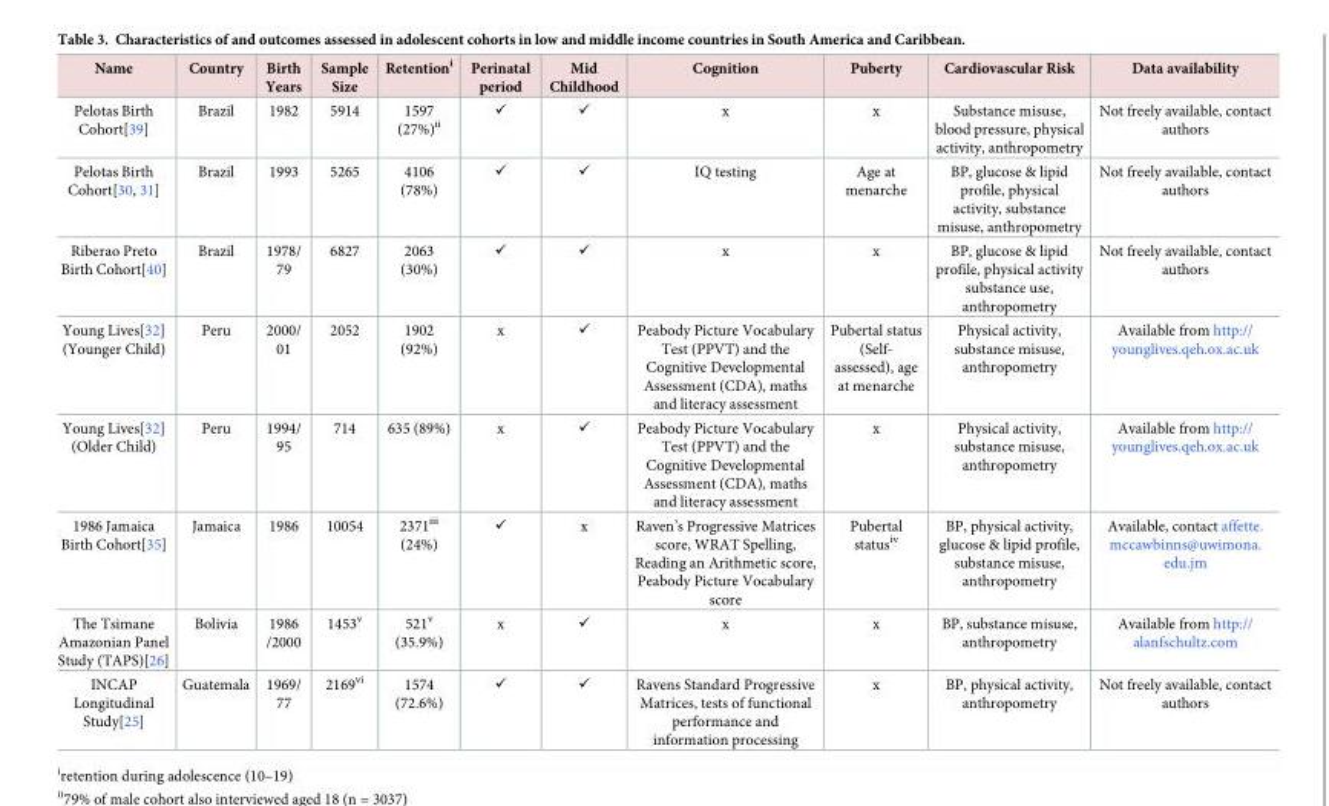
<table><thead><tr><td>Name</td><td>Country</td><td>Birth Years</td><td>Sample Size</td><td>Retention<sup>i</sup></td><td>Perinatal period</td><td>Mid Childhood</td><td>Cognition</td><td>Puberty</td><td>Cardiovascular Risk</td><td>Data availability</td></tr></thead><tbody><tr><td>Pelotas Birth Cohort[39]</td><td>Brazil</td><td>1982</td><td>5914</td><td>1597 (27%)<sup>ii</sup></td><td>✓</td><td>✓</td><td>x</td><td>x</td><td>Substance misuse, blood pressure, physical activity, anthropometry</td><td>Not freely available, contact authors</td></tr><tr><td>Pelotas Birth Cohort[30, 31]</td><td>Brazil</td><td>1993</td><td>5265</td><td>4106 (78%)</td><td>✓</td><td>✓</td><td>IQ testing</td><td>Age at menarche</td><td>BP, glucose &amp; lipid profile, physical activity, substance misuse, anthropometry</td><td>Not freely available, contact authors</td></tr><tr><td>Riberao Preto Birth Cohort[40]</td><td>Brazil</td><td>1978/ 79</td><td>6827</td><td>2063 (30%)</td><td>✓</td><td>✓</td><td>x</td><td>x</td><td>BP, glucose &amp; lipid profile, physical activity substance use, anthropometry</td><td>Not freely available, contact authors</td></tr><tr><td>Young Lives[32] (Younger Child)</td><td>Peru</td><td>2000/ 01</td><td>2052</td><td>1902 (92%)</td><td>x</td><td>✓</td><td>Peabody Picture Vocabulary Test (PPVT) and the Cognitive Developmental Assessment (CDA), maths and literacy assessment</td><td>Pubertal status (Self- assessed), age at menarche</td><td>Physical activity, substance misuse, anthropometry</td><td>Available from http:// younglives.qeh.ox.ac.uk</td></tr><tr><td>Young Lives[32] (Older Child)</td><td>Peru</td><td>1994/ 95</td><td>714</td><td>635 (89%)</td><td>x</td><td>✓</td><td>Peabody Picture Vocabulary Test (PPVT) and the Cognitive Developmental Assessment (CDA), maths and literacy assessment</td><td>x</td><td>Physical activity, substance misuse, anthropometry</td><td>Available from http:// younglives.qeh.ox.ac.uk</td></tr><tr><td>1986 Jamaica Birth Cohort[35]</td><td>Jamaica</td><td>1986</td><td>10054</td><td>2371<sup>iii</sup> (24%)</td><td>✓</td><td>x</td><td>Raven’s Progressive Matrices score, WRAT Spelling, Reading an Arithmetic score, Peabody Picture Vocabulary score</td><td>Pubertal status<sup>iv</sup></td><td>BP, physical activity, glucose &amp; lipid profile, substance misuse, anthropometry</td><td>Available, contact affette. mccawbinns@uwimona. edu.jm</td></tr><tr><td>The Tsimane Amazonian Panel Study (TAPS)[26]</td><td>Bolivia</td><td>1986 /2000</td><td>1453<sup>v</sup></td><td>521<sup>v</sup> (35.9%)</td><td>x</td><td>✓</td><td>x</td><td>x</td><td>BP, substance misuse, anthropometry</td><td>Available from http:// alanfschultz.com</td></tr><tr><td>INCAP Longitudinal Study[25]</td><td>Guatemala</td><td>1969/ 77</td><td>2169<sup>vi</sup></td><td>1574 (72.6%)</td><td>✓</td><td>✓</td><td>Ravens Standard Progressive Matrices, tests of functional performance and information processing</td><td>x</td><td>BP, physical activity, anthropometry</td><td>Not freely available, contact authors</td></tr></tbody></table>